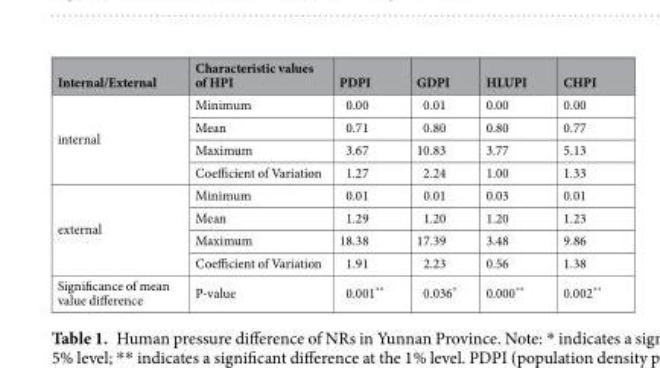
<table><thead><tr><td>Internal/External</td><td>Characteristic values of HPI</td><td>PDPI</td><td>GDPI</td><td>HLUPI</td><td>CHPI</td></tr></thead><tbody><tr><td rowspan="4">internal</td><td>Minimum</td><td>0.00</td><td>0.01</td><td>0.00</td><td>0.00</td></tr><tr><td>Mean</td><td>0.71</td><td>0.80</td><td>0.80</td><td>0.77</td></tr><tr><td>Maximum</td><td>3.67</td><td>10.83</td><td>3.77</td><td>5.13</td></tr><tr><td>Coefficient of Variation</td><td>1.27</td><td>2.24</td><td>1.00</td><td>1.33</td></tr><tr><td rowspan="4">external</td><td>Minimum</td><td>0.01</td><td>0.01</td><td>0.03</td><td>0.01</td></tr><tr><td>Mean</td><td>1.29</td><td>1.20</td><td>1.20</td><td>1.23</td></tr><tr><td>Maximum</td><td>18.38</td><td>17.39</td><td>3.48</td><td>9.86</td></tr><tr><td>Coefficient of Variation</td><td>1.91</td><td>2.23</td><td>0.56</td><td>1.38</td></tr><tr><td>Significance of mean value difference</td><td>P-value</td><td>0.001**</td><td>0.036*</td><td>0.000**</td><td>0.002**</td></tr></tbody></table>